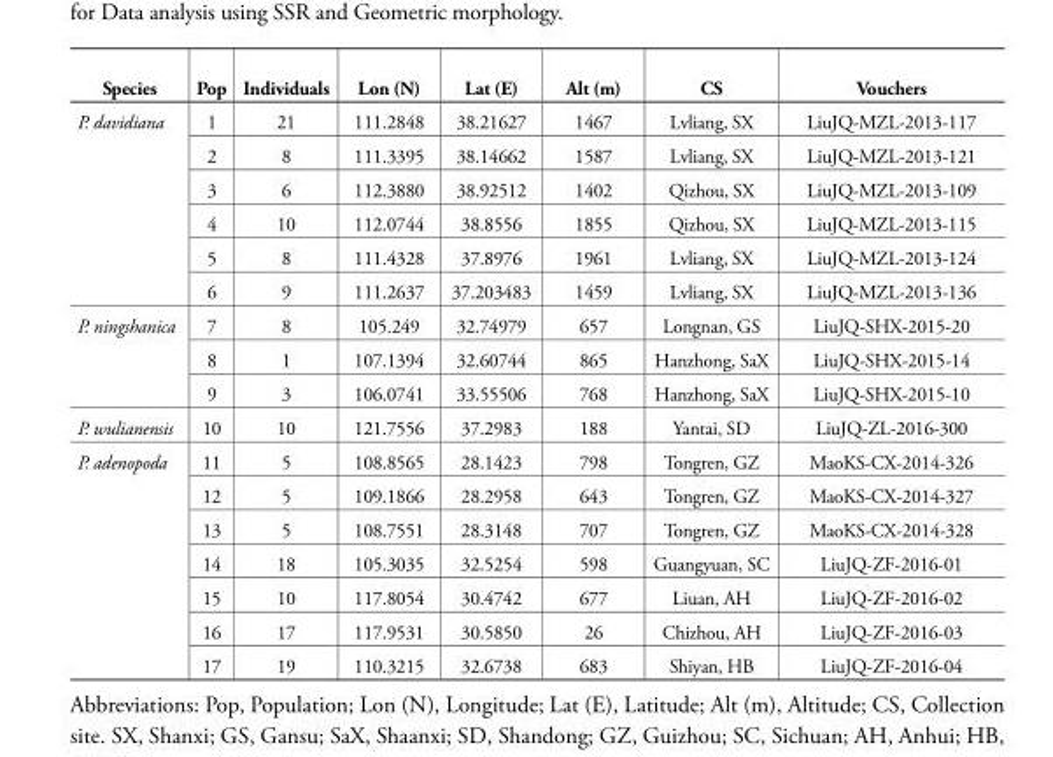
<table><thead><tr><td>Species</td><td>Pop</td><td>Individuals</td><td>Lon (N)</td><td>Lat (E)</td><td>Alt (m)</td><td>CS</td><td>Vouchers</td></tr></thead><tbody><tr><td rowspan="6">P. davidiana</td><td>1</td><td>21</td><td>111.2848</td><td>38.21627</td><td>1467</td><td>Lvliang, SX</td><td>LiuJQ-MZL-2013-117</td></tr><tr><td>2</td><td>8</td><td>111.3395</td><td>38.14662</td><td>1587</td><td>Lvliang, SX</td><td>LiuJQ-MZL-2013-121</td></tr><tr><td>3</td><td>6</td><td>112.3880</td><td>38.92512</td><td>1402</td><td>Qizhou, SX</td><td>LiuJQ-MZL-2013-109</td></tr><tr><td>4</td><td>10</td><td>112.0744</td><td>38.8556</td><td>1855</td><td>Qizhou, SX</td><td>LiuJQ-MZL-2013-115</td></tr><tr><td>5</td><td>8</td><td>111.4328</td><td>37.8976</td><td>1961</td><td>Lvliang, SX</td><td>LiuJQ-MZL-2013-124</td></tr><tr><td>6</td><td>9</td><td>111.2637</td><td>37.203483</td><td>1459</td><td>Lvliang, SX</td><td>LiuJQ-MZL-2013-136</td></tr><tr><td rowspan="3">P. ningshanica</td><td>7</td><td>8</td><td>105.249</td><td>32.74979</td><td>657</td><td>Longnan, GS</td><td>LiuJQ-SHX-2015-20</td></tr><tr><td>8</td><td>1</td><td>107.1394</td><td>32.60744</td><td>865</td><td>Hanzhong, SaX</td><td>LiuJQ-SHX-2015-14</td></tr><tr><td>9</td><td>3</td><td>106.0741</td><td>33.55506</td><td>768</td><td>Hanzhong, SaX</td><td>LiuJQ-SHX-2015-10</td></tr><tr><td>P. wulianensis</td><td>10</td><td>10</td><td>121.7556</td><td>37.2983</td><td>188</td><td>Yantai, SD</td><td>LiuJQ-ZL-2016-300</td></tr><tr><td rowspan="7">P. adenopoda</td><td>11</td><td>5</td><td>108.8565</td><td>28.1423</td><td>798</td><td>Tongren, GZ</td><td>MaoKS-CX-2014-326</td></tr><tr><td>12</td><td>5</td><td>109.1866</td><td>28.2958</td><td>643</td><td>Tongren, GZ</td><td>MaoKS-CX-2014-327</td></tr><tr><td>13</td><td>5</td><td>108.7551</td><td>28.3148</td><td>707</td><td>Tongren, GZ</td><td>MaoKS-CX-2014-328</td></tr><tr><td>14</td><td>18</td><td>105.3035</td><td>32.5254</td><td>598</td><td>Guangyuan, SC</td><td>LiuJQ-ZF-2016-01</td></tr><tr><td>15</td><td>10</td><td>117.8054</td><td>30.4742</td><td>677</td><td>Liuan, AH</td><td>LiuJQ-ZF-2016-02</td></tr><tr><td>16</td><td>17</td><td>117.9531</td><td>30.5850</td><td>26</td><td>Chizhou, AH</td><td>LiuJQ-ZF-2016-03</td></tr><tr><td>17</td><td>19</td><td>110.3215</td><td>32.6738</td><td>683</td><td>Shiyan, HB</td><td>LiuJQ-ZF-2016-04</td></tr></tbody></table>